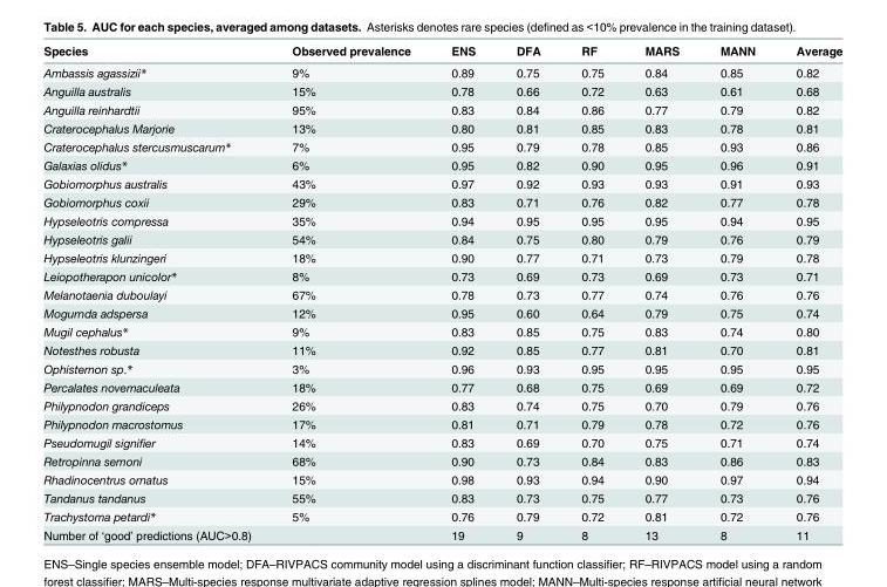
<table><thead><tr><td>Species</td><td>Observed prevalence</td><td>ENS</td><td>DFA</td><td>RF</td><td>MARS</td><td>MANN</td><td>Average</td></tr></thead><tbody><tr><td>Ambassis agassizii*</td><td>9%</td><td>0.89</td><td>0.75</td><td>0.75</td><td>0.84</td><td>0.85</td><td>0.82</td></tr><tr><td>Anguilla australis</td><td>15%</td><td>0.78</td><td>0.66</td><td>0.72</td><td>0.63</td><td>0.61</td><td>0.68</td></tr><tr><td>Anguilla reinhardtii</td><td>95%</td><td>0.83</td><td>0.84</td><td>0.86</td><td>0.77</td><td>0.79</td><td>0.82</td></tr><tr><td>Craterocephalus Marjorie</td><td>13%</td><td>0.80</td><td>0.81</td><td>0.85</td><td>0.83</td><td>0.78</td><td>0.81</td></tr><tr><td>Craterocephalus stercusmuscarum*</td><td>7%</td><td>0.95</td><td>0.79</td><td>0.78</td><td>0.85</td><td>0.93</td><td>0.86</td></tr><tr><td>Galaxias olidus*</td><td>6%</td><td>0.95</td><td>0.82</td><td>0.90</td><td>0.95</td><td>0.96</td><td>0.91</td></tr><tr><td>Gobiomorphus australis</td><td>43%</td><td>0.97</td><td>0.92</td><td>0.93</td><td>0.93</td><td>0.91</td><td>0.93</td></tr><tr><td>Gobiomorphus coxii</td><td>29%</td><td>0.83</td><td>0.71</td><td>0.76</td><td>0.82</td><td>0.77</td><td>0.78</td></tr><tr><td>Hypseleotris compressa</td><td>35%</td><td>0.94</td><td>0.95</td><td>0.95</td><td>0.95</td><td>0.94</td><td>0.95</td></tr><tr><td>Hypseleotris galii</td><td>54%</td><td>0.84</td><td>0.75</td><td>0.80</td><td>0.79</td><td>0.76</td><td>0.79</td></tr><tr><td>Hypseleotris klunzingeri</td><td>18%</td><td>0.90</td><td>0.77</td><td>0.71</td><td>0.73</td><td>0.79</td><td>0.78</td></tr><tr><td>Leiopotherapon unicolor*</td><td>8%</td><td>0.73</td><td>0.69</td><td>0.73</td><td>0.69</td><td>0.73</td><td>0.71</td></tr><tr><td>Melanotaenia duboulayi</td><td>67%</td><td>0.78</td><td>0.73</td><td>0.77</td><td>0.74</td><td>0.76</td><td>0.76</td></tr><tr><td>Mogurnda adspersa</td><td>12%</td><td>0.95</td><td>0.60</td><td>0.64</td><td>0.79</td><td>0.75</td><td>0.74</td></tr><tr><td>Mugil cephalus*</td><td>9%</td><td>0.83</td><td>0.85</td><td>0.75</td><td>0.83</td><td>0.74</td><td>0.80</td></tr><tr><td>Notesthes robusta</td><td>11%</td><td>0.92</td><td>0.85</td><td>0.77</td><td>0.81</td><td>0.70</td><td>0.81</td></tr><tr><td>Ophisternon sp.*</td><td>3%</td><td>0.96</td><td>0.93</td><td>0.95</td><td>0.95</td><td>0.95</td><td>0.95</td></tr><tr><td>Percalates novemaculeata</td><td>18%</td><td>0.77</td><td>0.68</td><td>0.75</td><td>0.69</td><td>0.69</td><td>0.72</td></tr><tr><td>Philypnodon grandiceps</td><td>26%</td><td>0.83</td><td>0.74</td><td>0.75</td><td>0.70</td><td>0.79</td><td>0.76</td></tr><tr><td>Philypnodon macrostomus</td><td>17%</td><td>0.81</td><td>0.71</td><td>0.79</td><td>0.78</td><td>0.72</td><td>0.76</td></tr><tr><td>Pseudomugil signifier</td><td>14%</td><td>0.83</td><td>0.69</td><td>0.70</td><td>0.75</td><td>0.71</td><td>0.74</td></tr><tr><td>Retropinna semoni</td><td>68%</td><td>0.90</td><td>0.73</td><td>0.84</td><td>0.83</td><td>0.86</td><td>0.83</td></tr><tr><td>Rhadinocentrus ornatus</td><td>15%</td><td>0.98</td><td>0.93</td><td>0.94</td><td>0.90</td><td>0.97</td><td>0.94</td></tr><tr><td>Tandanus tandanus</td><td>55%</td><td>0.83</td><td>0.73</td><td>0.75</td><td>0.77</td><td>0.73</td><td>0.76</td></tr><tr><td>Trachystoma petardi*</td><td>5%</td><td>0.76</td><td>0.79</td><td>0.72</td><td>0.81</td><td>0.72</td><td>0.76</td></tr><tr><td>Number of ‘good’ predictions (AUC&gt;0.8)</td><td></td><td>19</td><td>9</td><td>8</td><td>13</td><td>8</td><td>11</td></tr></tbody></table>